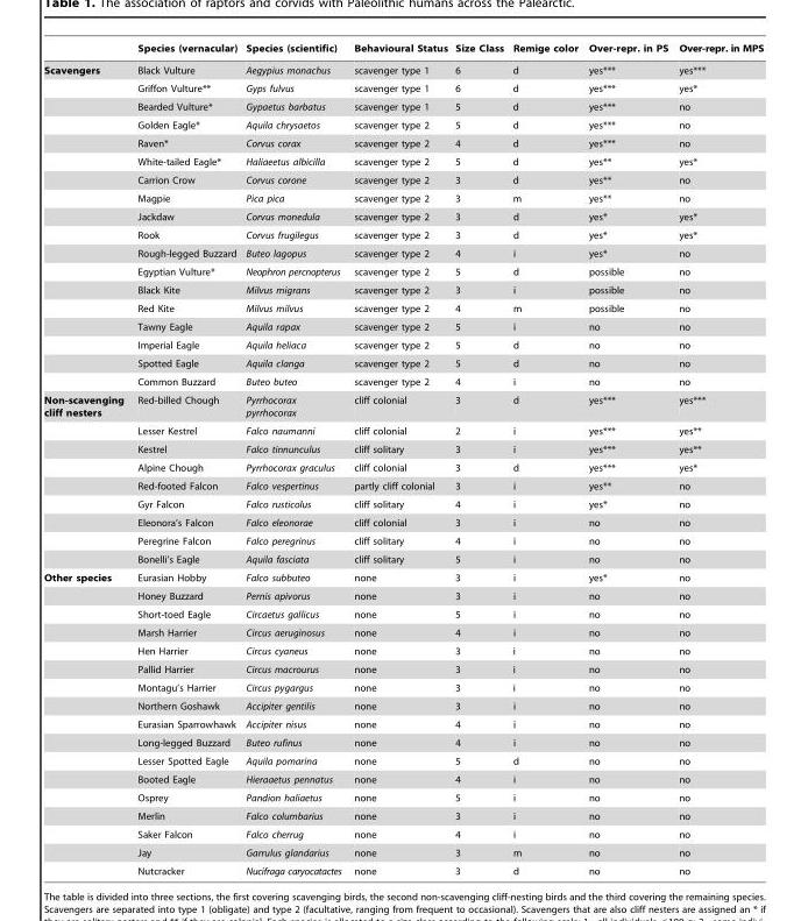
<table><thead><tr><td></td><td>Species (vernacular)</td><td>Species (scientific)</td><td>Behavioural Status</td><td>Size Class</td><td>Remige color</td><td>Over-repr. in PS</td><td>Over-repr. in MPS</td></tr></thead><tbody><tr><td rowspan="18">Scavengers</td><td>Black Vulture</td><td>Aegypius monachus</td><td>scavenger type 1</td><td>6</td><td>d</td><td>yes***</td><td>yes***</td></tr><tr><td>Griffon Vulture**</td><td>Gyps fulvus</td><td>scavenger type 1</td><td>6</td><td>d</td><td>yes***</td><td>yes*</td></tr><tr><td>Bearded Vulture*</td><td>Gypaetus barbatus</td><td>scavenger type 1</td><td>5</td><td>d</td><td>yes***</td><td>no</td></tr><tr><td>Golden Eagle*</td><td>Aquila chrysaetos</td><td>scavenger type 2</td><td>5</td><td>d</td><td>yes***</td><td>no</td></tr><tr><td>Raven*</td><td>Corvus corax</td><td>scavenger type 2</td><td>4</td><td>d</td><td>yes***</td><td>no</td></tr><tr><td>White-tailed Eagle*</td><td>Haliaeetus albicilla</td><td>scavenger type 2</td><td>5</td><td>d</td><td>yes**</td><td>yes*</td></tr><tr><td>Carrion Crow</td><td>Corvus corone</td><td>scavenger type 2</td><td>3</td><td>d</td><td>yes**</td><td>no</td></tr><tr><td>Magpie</td><td>Pica pica</td><td>scavenger type 2</td><td>3</td><td>m</td><td>yes**</td><td>no</td></tr><tr><td>Jackdaw</td><td>Corvus monedula</td><td>scavenger type 2</td><td>3</td><td>d</td><td>yes*</td><td>yes*</td></tr><tr><td>Rook</td><td>Corvus frugilegus</td><td>scavenger type 2</td><td>3</td><td>d</td><td>yes*</td><td>yes*</td></tr><tr><td>Rough-legged Buzzard</td><td>Buteo lagopus</td><td>scavenger type 2</td><td>4</td><td>i</td><td>yes*</td><td>no</td></tr><tr><td>Egyptian Vulture*</td><td>Neophron percnopterus</td><td>scavenger type 2</td><td>5</td><td>d</td><td>possible</td><td>no</td></tr><tr><td>Black Kite</td><td>Milvus migrans</td><td>scavenger type 2</td><td>3</td><td>i</td><td>possible</td><td>no</td></tr><tr><td>Red Kite</td><td>Milvus milvus</td><td>scavenger type 2</td><td>4</td><td>m</td><td>possible</td><td>no</td></tr><tr><td>Tawny Eagle</td><td>Aquila rapax</td><td>scavenger type 2</td><td>5</td><td>i</td><td>no</td><td>no</td></tr><tr><td>Imperial Eagle</td><td>Aquila heliaca</td><td>scavenger type 2</td><td>5</td><td>d</td><td>no</td><td>no</td></tr><tr><td>Spotted Eagle</td><td>Aquila clanga</td><td>scavenger type 2</td><td>5</td><td>d</td><td>no</td><td>no</td></tr><tr><td>Common Buzzard</td><td>Buteo buteo</td><td>scavenger type 2</td><td>4</td><td>i</td><td>no</td><td>no</td></tr><tr><td rowspan="9">Non-scavenging cliff nesters</td><td>Red-billed Chough</td><td>Pyrrhocorax pyrrhocorax</td><td>cliff colonial</td><td>3</td><td>d</td><td>yes***</td><td>yes***</td></tr><tr><td>Lesser Kestrel</td><td>Falco naumanni</td><td>cliff colonial</td><td>2</td><td>i</td><td>yes***</td><td>yes**</td></tr><tr><td>Kestrel</td><td>Falco tinnunculus</td><td>cliff solitary</td><td>3</td><td>i</td><td>yes***</td><td>yes**</td></tr><tr><td>Alpine Chough</td><td>Pyrrhocorax graculus</td><td>cliff colonial</td><td>3</td><td>d</td><td>yes***</td><td>yes*</td></tr><tr><td>Red-footed Falcon</td><td>Falco vespertinus</td><td>partly cliff colonial</td><td>3</td><td>i</td><td>yes**</td><td>no</td></tr><tr><td>Gyr Falcon</td><td>Falco rusticolus</td><td>cliff solitary</td><td>4</td><td>i</td><td>yes*</td><td>no</td></tr><tr><td>Eleonora’s Falcon</td><td>Falco eleonorae</td><td>cliff colonial</td><td>3</td><td>i</td><td>no</td><td>no</td></tr><tr><td>Peregrine Falcon</td><td>Falco peregrinus</td><td>cliff solitary</td><td>4</td><td>i</td><td>no</td><td>no</td></tr><tr><td>Bonelli’s Eagle</td><td>Aquila fasciata</td><td>cliff solitary</td><td>5</td><td>i</td><td>no</td><td>no</td></tr><tr><td rowspan="17">Other species</td><td>Eurasian Hobby</td><td>Falco subbuteo</td><td>none</td><td>3</td><td>i</td><td>yes*</td><td>no</td></tr><tr><td>Honey Buzzard</td><td>Pernis apivorus</td><td>none</td><td>3</td><td>i</td><td>no</td><td>no</td></tr><tr><td>Short-toed Eagle</td><td>Circaetus gallicus</td><td>none</td><td>5</td><td>i</td><td>no</td><td>no</td></tr><tr><td>Marsh Harrier</td><td>Circus aeruginosus</td><td>none</td><td>4</td><td>i</td><td>no</td><td>no</td></tr><tr><td>Hen Harrier</td><td>Circus cyaneus</td><td>none</td><td>3</td><td>i</td><td>no</td><td>no</td></tr><tr><td>Pallid Harrier</td><td>Circus macrourus</td><td>none</td><td>3</td><td>i</td><td>no</td><td>no</td></tr><tr><td>Montagu’s Harrier</td><td>Circus pygargus</td><td>none</td><td>3</td><td>i</td><td>no</td><td>no</td></tr><tr><td>Northern Goshawk</td><td>Accipiter gentilis</td><td>none</td><td>3</td><td>i</td><td>no</td><td>no</td></tr><tr><td>Eurasian Sparrowhawk</td><td>Accipiter nisus</td><td>none</td><td>4</td><td>i</td><td>no</td><td>no</td></tr><tr><td>Long-legged Buzzard</td><td>Buteo rufinus</td><td>none</td><td>4</td><td>i</td><td>no</td><td>no</td></tr><tr><td>Lesser Spotted Eagle</td><td>Aquila pomarina</td><td>none</td><td>5</td><td>d</td><td>no</td><td>no</td></tr><tr><td>Booted Eagle</td><td>Hieraaetus pennatus</td><td>none</td><td>4</td><td>i</td><td>no</td><td>no</td></tr><tr><td>Osprey</td><td>Pandion haliaetus</td><td>none</td><td>5</td><td>i</td><td>no</td><td>no</td></tr><tr><td>Merlin</td><td>Falco columbarius</td><td>none</td><td>3</td><td>i</td><td>no</td><td>no</td></tr><tr><td>Saker Falcon</td><td>Falco cherrug</td><td>none</td><td>4</td><td>i</td><td>no</td><td>no</td></tr><tr><td>Jay</td><td>Garrulus glandarius</td><td>none</td><td>3</td><td>m</td><td>no</td><td>no</td></tr><tr><td>Nutcracker</td><td>Nucifraga caryocatactes</td><td>none</td><td>3</td><td>d</td><td>no</td><td>no</td></tr></tbody></table>